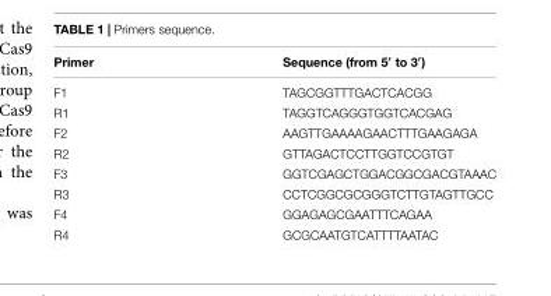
<table><thead><tr><td>Primer</td><td>Sequence (from 5′ to 3′)</td></tr></thead><tbody><tr><td>F1</td><td>TAGCGGTTTGACTCACGG</td></tr><tr><td>R1</td><td>TAGGTCAGGGTGGTCACGAG</td></tr><tr><td>F2</td><td>AAGTTGAAAAGAACTTTGAAGAGA</td></tr><tr><td>R2</td><td>GTTAGACTCCTTGGTCCGTGT</td></tr><tr><td>F3</td><td>GGTCGAGCTGGACGGCGACGTAAAC</td></tr><tr><td>R3</td><td>CCTCGGCGCGGGTCTTGTAGTTGCC</td></tr><tr><td>F4</td><td>GGAGAGCGAATTTCAGAA</td></tr><tr><td>R4</td><td>GCGCAATGTCATTTTAATAC</td></tr></tbody></table>